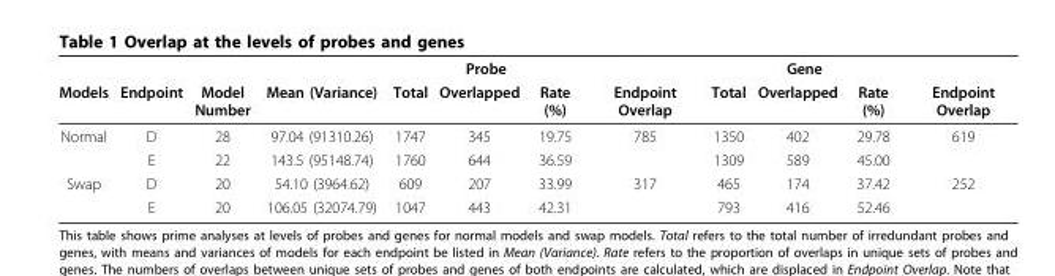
<table><thead><tr><td rowspan="2">Models</td><td rowspan="2">Endpoint</td><td rowspan="2">Model Number</td><td rowspan="2">Mean (Variance)</td><td colspan="3">Probe</td><td rowspan="2">Endpoint Overlap</td><td colspan="3">Gene</td><td rowspan="2">Endpoint Overlap</td></tr><tr><td>Total</td><td>Overlapped</td><td>Rate (%)</td><td>Total</td><td>Overlapped</td><td>Rate (%)</td></tr></thead><tbody><tr><td rowspan="2">Normal</td><td>D</td><td>28</td><td>97.04 (91310.26)</td><td>1747</td><td>345</td><td>19.75</td><td>785</td><td>1350</td><td>402</td><td>29.78</td><td>619</td></tr><tr><td>E</td><td>22</td><td>143.5 (95148.74)</td><td>1760</td><td>644</td><td>36.59</td><td></td><td>1309</td><td>589</td><td>45.00</td><td></td></tr><tr><td rowspan="2">Swap</td><td>D</td><td>20</td><td>54.10 (3964.62)</td><td>609</td><td>207</td><td>33.99</td><td>317</td><td>465</td><td>174</td><td>37.42</td><td>252</td></tr><tr><td>E</td><td>20</td><td>106.05 (32074.79)</td><td>1047</td><td>443</td><td>42.31</td><td></td><td>793</td><td>416</td><td>52.46</td><td></td></tr></tbody></table>